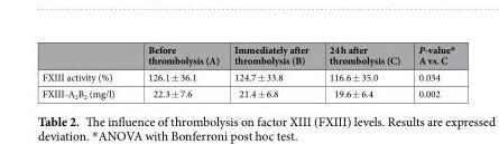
<table><thead><tr><td></td><td>Before thrombolysis (A)</td><td>Immediately after thrombolysis (B)</td><td>24 h after thrombolysis (C)</td><td>P-value* A vs. C</td></tr></thead><tbody><tr><td>FXIII activity (%)</td><td>126.1 ± 36.1</td><td>124.7 ± 33.8</td><td>116.6 ± 35.0</td><td>0.034</td></tr><tr><td>FXIII-A<sub>2</sub>B<sub>2</sub> (mg/l)</td><td>22.3 ± 7.6</td><td>21.4 ± 6.8</td><td>19.6 ± 6.4</td><td>0.002</td></tr></tbody></table>